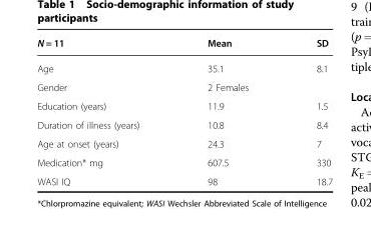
<table><thead><tr><td>N = 11</td><td>Mean</td><td>SD</td></tr></thead><tbody><tr><td>Age</td><td>35.1</td><td>8.1</td></tr><tr><td>Gender</td><td>2 Females</td><td></td></tr><tr><td>Education (years)</td><td>11.9</td><td>1.5</td></tr><tr><td>Duration of illness (years)</td><td>10.8</td><td>8.4</td></tr><tr><td>Age at onset (years)</td><td>24.3</td><td>7</td></tr><tr><td>Medication* mg</td><td>607.5</td><td>330</td></tr><tr><td>WASI IQ</td><td>98</td><td>18.7</td></tr></tbody></table>